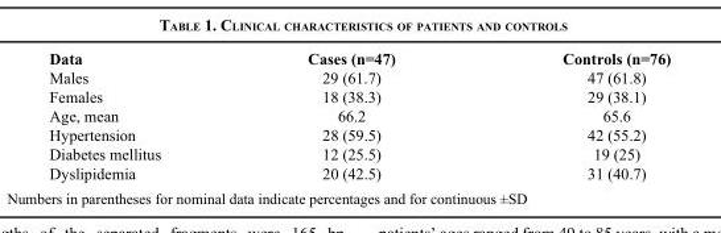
<table><thead><tr><td>Data</td><td>Cases (n=47)</td><td>Controls (n=76)</td></tr></thead><tbody><tr><td>Males</td><td>29 (61.7)</td><td>47 (61.8)</td></tr><tr><td>Females</td><td>18 (38.3)</td><td>29 (38.1)</td></tr><tr><td>Age, mean</td><td>66.2</td><td>65.6</td></tr><tr><td>Hypertension</td><td>28 (59.5)</td><td>42 (55.2)</td></tr><tr><td>Diabetes mellitus</td><td>12 (25.5)</td><td>19 (25)</td></tr><tr><td>Dyslipidemia</td><td>20 (42.5)</td><td>31 (40.7)</td></tr></tbody></table>